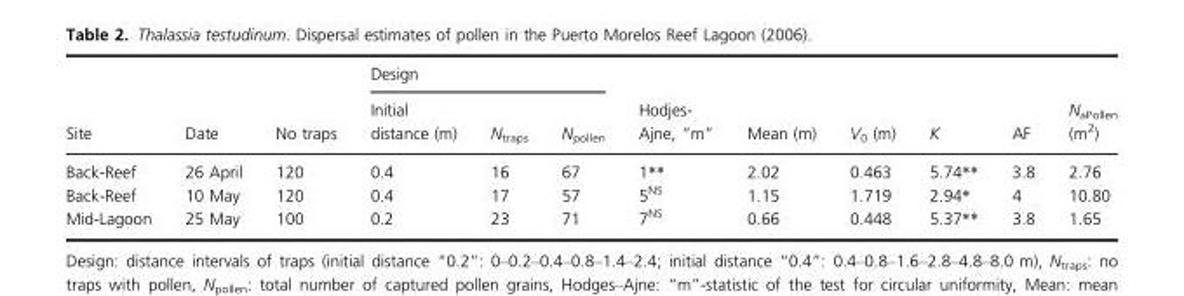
<table><thead><tr><td rowspan="2">Site</td><td rowspan="2">Date</td><td rowspan="2">No traps</td><td colspan="3">Design</td><td rowspan="2">Hodjes- Ajne, “m”</td><td rowspan="2">Mean (m)</td><td rowspan="2">V<sub>0</sub> (m)</td><td rowspan="2">K</td><td rowspan="2">AF</td><td rowspan="2">N<sub>aPollen</sub> (m<sup>2</sup>)</td></tr><tr><td>Initial distance (m)</td><td>N<sub>traps</sub></td><td>N<sub>pollen</sub></td></tr></thead><tbody><tr><td>Back-Reef</td><td>26 April</td><td>120</td><td>0.4</td><td>16</td><td>67</td><td>1**</td><td>2.02</td><td>0.463</td><td>5.74**</td><td>3.8</td><td>2.76</td></tr><tr><td>Back-Reef</td><td>10 May</td><td>120</td><td>0.4</td><td>17</td><td>57</td><td>5<sup>NS</sup></td><td>1.15</td><td>1.719</td><td>2.94*</td><td>4</td><td>10.80</td></tr><tr><td>Mid-Lagoon</td><td>25 May</td><td>100</td><td>0.2</td><td>23</td><td>71</td><td>7<sup>NS</sup></td><td>0.66</td><td>0.448</td><td>5.37**</td><td>3.8</td><td>1.65</td></tr></tbody></table>